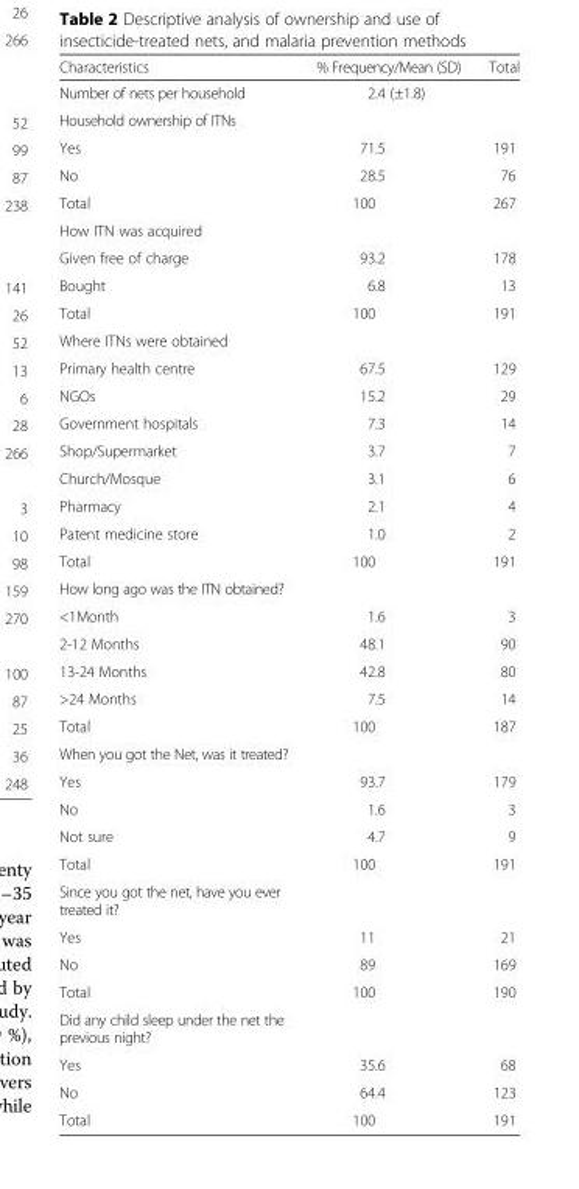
<table><thead><tr><td>Characteristics</td><td>% Frequency/Mean (SD)</td><td>Total</td></tr></thead><tbody><tr><td>Number of nets per household</td><td>2.4 (±1.8)</td><td></td></tr><tr><td colspan="3">Household ownership of ITNs</td></tr><tr><td>Yes</td><td>71.5</td><td>191</td></tr><tr><td>No</td><td>28.5</td><td>76</td></tr><tr><td>Total</td><td>100</td><td>267</td></tr><tr><td colspan="3">How ITN was acquired</td></tr><tr><td>Given free of charge</td><td>93.2</td><td>178</td></tr><tr><td>Bought</td><td>6.8</td><td>13</td></tr><tr><td>Total</td><td>100</td><td>191</td></tr><tr><td colspan="3">Where ITNs were obtained</td></tr><tr><td>Primary health centre</td><td>67.5</td><td>129</td></tr><tr><td>NGOs</td><td>15.2</td><td>29</td></tr><tr><td>Government hospitals</td><td>7.3</td><td>14</td></tr><tr><td>Shop/Supermarket</td><td>3.7</td><td>7</td></tr><tr><td>Church/Mosque</td><td>3.1</td><td>6</td></tr><tr><td>Pharmacy</td><td>2.1</td><td>4</td></tr><tr><td>Patent medicine store</td><td>1.0</td><td>2</td></tr><tr><td>Total</td><td>100</td><td>191</td></tr><tr><td colspan="3">How long ago was the ITN obtained?</td></tr><tr><td>&lt;1Month</td><td>1.6</td><td>3</td></tr><tr><td>2-12 Months</td><td>48.1</td><td>90</td></tr><tr><td>13-24 Months</td><td>42.8</td><td>80</td></tr><tr><td>&gt;24 Months</td><td>7.5</td><td>14</td></tr><tr><td>Total</td><td>100</td><td>187</td></tr><tr><td colspan="3">When you got the Net, was it treated?</td></tr><tr><td>Yes</td><td>93.7</td><td>179</td></tr><tr><td>No</td><td>1.6</td><td>3</td></tr><tr><td>Not sure</td><td>4.7</td><td>9</td></tr><tr><td>Total</td><td>100</td><td>191</td></tr><tr><td colspan="3">Since you got the net, have you ever treated it?</td></tr><tr><td>Yes</td><td>11</td><td>21</td></tr><tr><td>No</td><td>89</td><td>169</td></tr><tr><td>Total</td><td>100</td><td>190</td></tr><tr><td colspan="3">Did any child sleep under the net the previous night?</td></tr><tr><td>Yes</td><td>35.6</td><td>68</td></tr><tr><td>No</td><td>64.4</td><td>123</td></tr><tr><td>Total</td><td>100</td><td>191</td></tr></tbody></table>